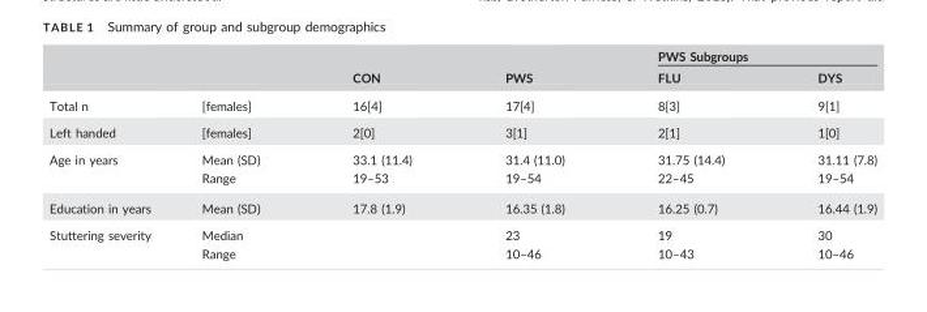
<table><thead><tr><td rowspan="2"></td><td rowspan="2"></td><td rowspan="2">CON</td><td rowspan="2">PWS</td><td colspan="2">PWS Subgroups</td></tr><tr><td>FLU</td><td>DYS</td></tr></thead><tbody><tr><td>Total n</td><td>[females]</td><td>16[4]</td><td>17[4]</td><td>8[3]</td><td>9[1]</td></tr><tr><td>Left handed</td><td>[females]</td><td>2[0]</td><td>3[1]</td><td>2[1]</td><td>1[0]</td></tr><tr><td rowspan="2">Age in years</td><td>Mean (SD)</td><td>33.1 (11.4)</td><td>31.4 (11.0)</td><td>31.75 (14.4)</td><td>31.11 (7.8)</td></tr><tr><td>Range</td><td>19–53</td><td>19–54</td><td>22–45</td><td>19–54</td></tr><tr><td>Education in years</td><td>Mean (SD)</td><td>17.8 (1.9)</td><td>16.35 (1.8)</td><td>16.25 (0.7)</td><td>16.44 (1.9)</td></tr><tr><td rowspan="2">Stuttering severity</td><td>Median</td><td></td><td>23</td><td>19</td><td>30</td></tr><tr><td>Range</td><td></td><td>10–46</td><td>10–43</td><td>10–46</td></tr></tbody></table>